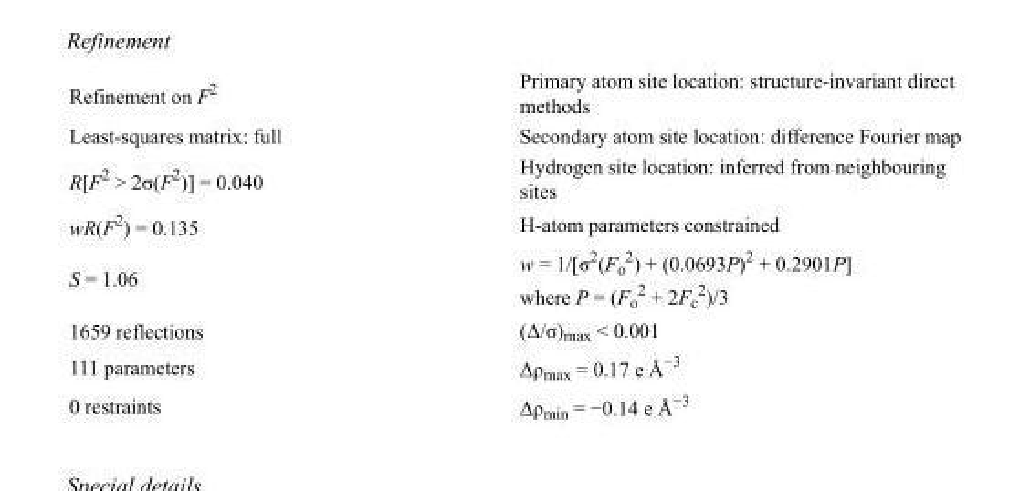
<table><tbody><tr><td>Refinement on F<sup>2</sup></td><td>Primary atom site location: structure-invariant direct methods</td></tr><tr><td>Least-squares matrix: full</td><td>Secondary atom site location: difference Fourier map</td></tr><tr><td>R[F<sup>2</sup> &gt; 2σ(F<sup>2</sup>)] = 0.040</td><td>Hydrogen site location: inferred from neighbouring sites</td></tr><tr><td>wR(F<sup>2</sup>) = 0.135</td><td>H-atom parameters constrained</td></tr><tr><td>S = 1.06</td><td>w = 1/[σ<sup>2</sup>(F<sub>o</sub> <sup>2</sup>) + (0.0693P)<sup>2</sup> + 0.2901P] where P = (F<sub>o</sub> <sup>2</sup> + 2F<sub>c</sub> <sup>2</sup>)/3</td></tr><tr><td>1659 reflections</td><td>(Δ/σ)<sub>max</sub> &lt; 0.001</td></tr><tr><td>111 parameters</td><td>Δρ<sub>max</sub> = 0.17 e Å<sup>−3</sup></td></tr><tr><td>0 restraints</td><td>Δρ<sub>min</sub> = −0.14 e Å<sup>−3</sup></td></tr></tbody></table>